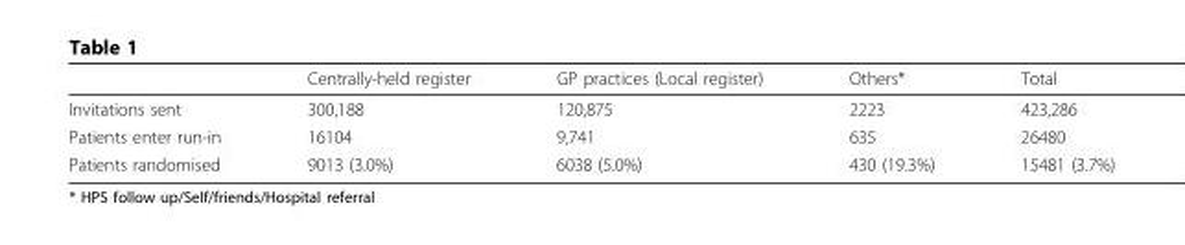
<table><thead><tr><td></td><td>Centrally-held register</td><td>GP practices (Local register)</td><td>Others*</td><td>Total</td></tr></thead><tbody><tr><td>Invitations sent</td><td>300,188</td><td>120,875</td><td>2223</td><td>423,286</td></tr><tr><td>Patients enter run-in</td><td>16104</td><td>9,741</td><td>635</td><td>26480</td></tr><tr><td>Patients randomised</td><td>9013 (3.0%)</td><td>6038 (5.0%)</td><td>430 (19.3%)</td><td>15481 (3.7%)</td></tr></tbody></table>